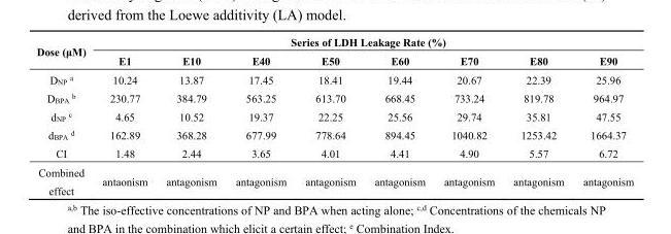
<table><thead><tr><td rowspan="2">Dose (μM)</td><td colspan="8">Series of LDH Leakage Rate (%)</td></tr><tr><td>E1</td><td>E10</td><td>E40</td><td>E50</td><td>E60</td><td>E70</td><td>E80</td><td>E90</td></tr></thead><tbody><tr><td>D<sub>NP</sub> <sup>a</sup></td><td>10.24</td><td>13.87</td><td>17.45</td><td>18.41</td><td>19.44</td><td>20.67</td><td>22.39</td><td>25.96</td></tr><tr><td>D<sub>BPA</sub> <sup>b</sup></td><td>230.77</td><td>384.79</td><td>563.25</td><td>613.70</td><td>668.45</td><td>733.24</td><td>819.78</td><td>964.97</td></tr><tr><td>d<sub>NP</sub> <sup>c</sup></td><td>4.65</td><td>10.52</td><td>19.37</td><td>22.25</td><td>25.56</td><td>29.74</td><td>35.81</td><td>47.55</td></tr><tr><td>d<sub>BPA</sub> <sup>d</sup></td><td>162.89</td><td>368.28</td><td>677.99</td><td>778.64</td><td>894.45</td><td>1040.82</td><td>1253.42</td><td>1664.37</td></tr><tr><td>CI</td><td>1.48</td><td>2.44</td><td>3.65</td><td>4.01</td><td>4.41</td><td>4.90</td><td>5.57</td><td>6.72</td></tr><tr><td>Combined effect</td><td>antaonism</td><td>antagonism</td><td>antagonism</td><td>antagonism</td><td>antagonism</td><td>antagonism</td><td>antagonism</td><td>antagonism</td></tr></tbody></table>